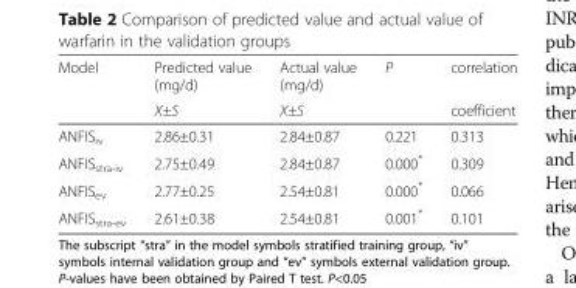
<table><thead><tr><td rowspan="2">Model</td><td rowspan="2">Predicted value (mg/d) X±S</td><td rowspan="2">Actual value (mg/d) X±S</td><td rowspan="2">P</td><td rowspan="2">correlation coefficient</td></tr><tr></tr></thead><tbody><tr><td>ANFIS<sub>iv</sub></td><td>2.86±0.31</td><td>2.84±0.87</td><td>0.221</td><td>0.313</td></tr><tr><td>ANFIS<sub>stra-iv</sub></td><td>2.75±0.49</td><td>2.84±0.87</td><td>0.000*</td><td>0.309</td></tr><tr><td>ANFIS<sub>ev</sub></td><td>2.77±0.25</td><td>2.54±0.81</td><td>0.000*</td><td>0.066</td></tr><tr><td>ANFIS<sub>stra-ev</sub></td><td>2.61±0.38</td><td>2.54±0.81</td><td>0.001*</td><td>0.101</td></tr></tbody></table>